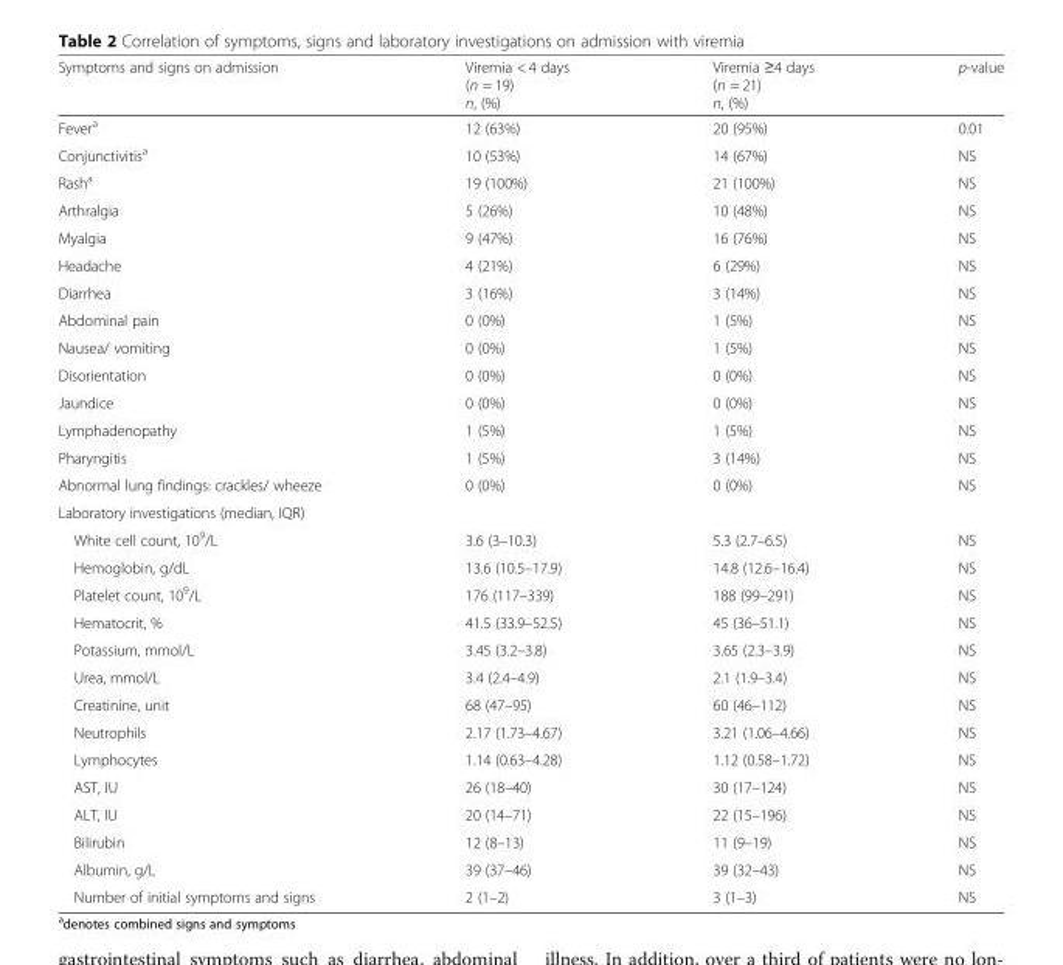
<table><thead><tr><td>Symptoms and signs on admission</td><td>Viremia &lt; 4 days (n = 19) n, (%)</td><td>Viremia ≥4 days (n = 21) n, (%)</td><td>p-value</td></tr></thead><tbody><tr><td>Fever<sup>a</sup></td><td>12 (63%)</td><td>20 (95%)</td><td>0.01</td></tr><tr><td>Conjunctivitis<sup>a</sup></td><td>10 (53%)</td><td>14 (67%)</td><td>NS</td></tr><tr><td>Rash<sup>a</sup></td><td>19 (100%)</td><td>21 (100%)</td><td>NS</td></tr><tr><td>Arthralgia</td><td>5 (26%)</td><td>10 (48%)</td><td>NS</td></tr><tr><td>Myalgia</td><td>9 (47%)</td><td>16 (76%)</td><td>NS</td></tr><tr><td>Headache</td><td>4 (21%)</td><td>6 (29%)</td><td>NS</td></tr><tr><td>Diarrhea</td><td>3 (16%)</td><td>3 (14%)</td><td>NS</td></tr><tr><td>Abdominal pain</td><td>0 (0%)</td><td>1 (5%)</td><td>NS</td></tr><tr><td>Nausea/ vomiting</td><td>0 (0%)</td><td>1 (5%)</td><td>NS</td></tr><tr><td>Disorientation</td><td>0 (0%)</td><td>0 (0%)</td><td>NS</td></tr><tr><td>Jaundice</td><td>0 (0%)</td><td>0 (0%)</td><td>NS</td></tr><tr><td>Lymphadenopathy</td><td>1 (5%)</td><td>1 (5%)</td><td>NS</td></tr><tr><td>Pharyngitis</td><td>1 (5%)</td><td>3 (14%)</td><td>NS</td></tr><tr><td>Abnormal lung findings: crackles/ wheeze</td><td>0 (0%)</td><td>0 (0%)</td><td>NS</td></tr><tr><td colspan="4">Laboratory investigations (median, IQR)</td></tr><tr><td>White cell count, 10<sup>9</sup>/L</td><td>3.6 (3–10.3)</td><td>5.3 (2.7–6.5)</td><td>NS</td></tr><tr><td>Hemoglobin, g/dL</td><td>13.6 (10.5–17.9)</td><td>14.8 (12.6–16.4)</td><td>NS</td></tr><tr><td>Platelet count, 10<sup>9</sup>/L</td><td>176 (117–339)</td><td>188 (99–291)</td><td>NS</td></tr><tr><td>Hematocrit, %</td><td>41.5 (33.9–52.5)</td><td>45 (36–51.1)</td><td>NS</td></tr><tr><td>Potassium, mmol/L</td><td>3.45 (3.2–3.8)</td><td>3.65 (2.3–3.9)</td><td>NS</td></tr><tr><td>Urea, mmol/L</td><td>3.4 (2.4–4.9)</td><td>2.1 (1.9–3.4)</td><td>NS</td></tr><tr><td>Creatinine, unit</td><td>68 (47–95)</td><td>60 (46–112)</td><td>NS</td></tr><tr><td>Neutrophils</td><td>2.17 (1.73–4.67)</td><td>3.21 (1.06–4.66)</td><td>NS</td></tr><tr><td>Lymphocytes</td><td>1.14 (0.63–4.28)</td><td>1.12 (0.58–1.72)</td><td>NS</td></tr><tr><td>AST, IU</td><td>26 (18–40)</td><td>30 (17–124)</td><td>NS</td></tr><tr><td>ALT, IU</td><td>20 (14–71)</td><td>22 (15–196)</td><td>NS</td></tr><tr><td>Bilirubin</td><td>12 (8–13)</td><td>11 (9–19)</td><td>NS</td></tr><tr><td>Albumin, g/L</td><td>39 (37–46)</td><td>39 (32–43)</td><td>NS</td></tr><tr><td>Number of initial symptoms and signs</td><td>2 (1–2)</td><td>3 (1–3)</td><td>NS</td></tr></tbody></table>